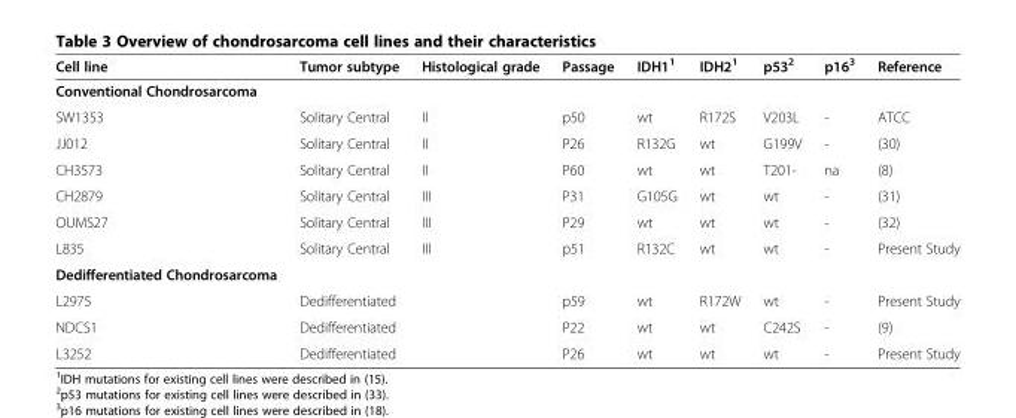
<table><thead><tr><td>Cell line</td><td>Tumor subtype</td><td>Histological grade</td><td>Passage</td><td>IDH1<sup>1</sup></td><td>IDH2<sup>1</sup></td><td>p53<sup>2</sup></td><td>p16<sup>3</sup></td><td>Reference</td></tr></thead><tbody><tr><td colspan="9">Conventional Chondrosarcoma</td></tr><tr><td>SW1353</td><td>Solitary Central</td><td>II</td><td>p50</td><td>wt</td><td>R172S</td><td>V203L</td><td>-</td><td>ATCC</td></tr><tr><td>JJ012</td><td>Solitary Central</td><td>II</td><td>P26</td><td>R132G</td><td>wt</td><td>G199V</td><td>-</td><td>(30)</td></tr><tr><td>CH3573</td><td>Solitary Central</td><td>II</td><td>P60</td><td>wt</td><td>wt</td><td>T201-</td><td>na</td><td>(8)</td></tr><tr><td>CH2879</td><td>Solitary Central</td><td>III</td><td>P31</td><td>G105G</td><td>wt</td><td>wt</td><td>-</td><td>(31)</td></tr><tr><td>OUMS27</td><td>Solitary Central</td><td>III</td><td>P29</td><td>wt</td><td>wt</td><td>wt</td><td>-</td><td>(32)</td></tr><tr><td>L835</td><td>Solitary Central</td><td>III</td><td>p51</td><td>R132C</td><td>wt</td><td>wt</td><td>-</td><td>Present Study</td></tr><tr><td colspan="9">Dedifferentiated Chondrosarcoma</td></tr><tr><td>L2975</td><td>Dedifferentiated</td><td></td><td>p59</td><td>wt</td><td>R172W</td><td>wt</td><td>-</td><td>Present Study</td></tr><tr><td>NDCS1</td><td>Dedifferentiated</td><td></td><td>P22</td><td>wt</td><td>wt</td><td>C242S</td><td>-</td><td>(9)</td></tr><tr><td>L3252</td><td>Dedifferentiated</td><td></td><td>P26</td><td>wt</td><td>wt</td><td>wt</td><td>-</td><td>Present Study</td></tr></tbody></table>